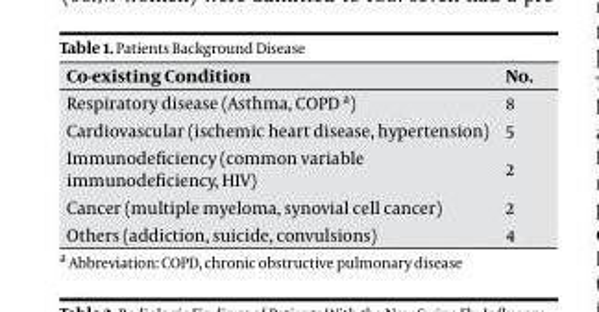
<table><thead><tr><td>co-existing condition</td><td>no.</td></tr></thead><tbody><tr><td>Respiratory disease (Asthma, COPD <sup>a</sup>)</td><td>8</td></tr><tr><td>Cardiovascular (ischemic heart disease, hypertension)</td><td>5</td></tr><tr><td>Immunodeficiency (common variable immunodeficiency, HIV)</td><td>2</td></tr><tr><td>Cancer (multiple myeloma, synovial cell cancer)</td><td>2</td></tr><tr><td>Others (addiction, suicide, convulsions)</td><td>4</td></tr></tbody></table>